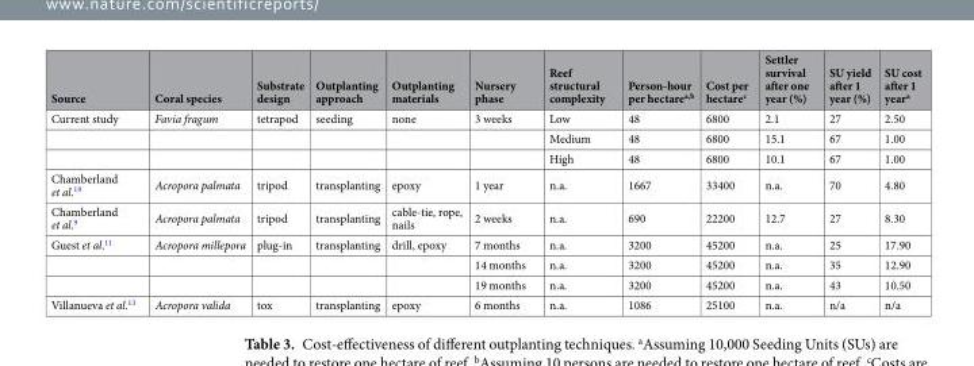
<table><thead><tr><td>Source</td><td>Coral species</td><td>Substrate design</td><td>Outplanting approach</td><td>Outplanting materials</td><td>Nursery phase</td><td>Reef structural complexity</td><td>Person-hour per hectare<sup>a,b</sup></td><td>Cost per hectare<sup>c</sup></td><td>Settler survival after one year (%)</td><td>SU yield after 1 year (%)</td><td>SU cost after 1 year<sup>a</sup></td></tr></thead><tbody><tr><td rowspan="3">Current study</td><td>Favia fragum</td><td>tetrapod</td><td>seeding</td><td>none</td><td>3 weeks</td><td>Low</td><td>48</td><td>6800</td><td>2.1</td><td>27</td><td>2.50</td></tr><tr><td></td><td></td><td></td><td></td><td></td><td>Medium</td><td>48</td><td>6800</td><td>15.1</td><td>67</td><td>1.00</td></tr><tr><td></td><td></td><td></td><td></td><td></td><td>High</td><td>48</td><td>6800</td><td>10.1</td><td>67</td><td>1.00</td></tr><tr><td>Chamberland et al.<sup>19</sup></td><td>Acropora palmata</td><td>tripod</td><td>transplanting</td><td>epoxy</td><td>1 year</td><td>n.a.</td><td>1667</td><td>33400</td><td>n.a.</td><td>70</td><td>4.80</td></tr><tr><td>Chamberland et al.<sup>9</sup></td><td>Acropora palmata</td><td>tripod</td><td>transplanting</td><td>cable-tie, rope, nails</td><td>2 weeks</td><td>n.a.</td><td>690</td><td>22200</td><td>12.7</td><td>27</td><td>8.30</td></tr><tr><td rowspan="3">Guest et al.<sup>11</sup></td><td>Acropora millepora</td><td>plug-in</td><td>transplanting</td><td>drill, epoxy</td><td>7 months</td><td>n.a.</td><td>3200</td><td>45200</td><td>n.a.</td><td>25</td><td>17.90</td></tr><tr><td></td><td></td><td></td><td></td><td>14 months</td><td>n.a.</td><td>3200</td><td>45200</td><td>n.a.</td><td>35</td><td>12.90</td></tr><tr><td></td><td></td><td></td><td></td><td>19 months</td><td>n.a.</td><td>3200</td><td>45200</td><td>n.a.</td><td>43</td><td>10.50</td></tr><tr><td>Villanueva et al.<sup>13</sup></td><td>Acropora valida</td><td>tox</td><td>transplanting</td><td>epoxy</td><td>6 months</td><td>n.a.</td><td>1086</td><td>25100</td><td>n.a.</td><td>n/a</td><td>n/a</td></tr></tbody></table>